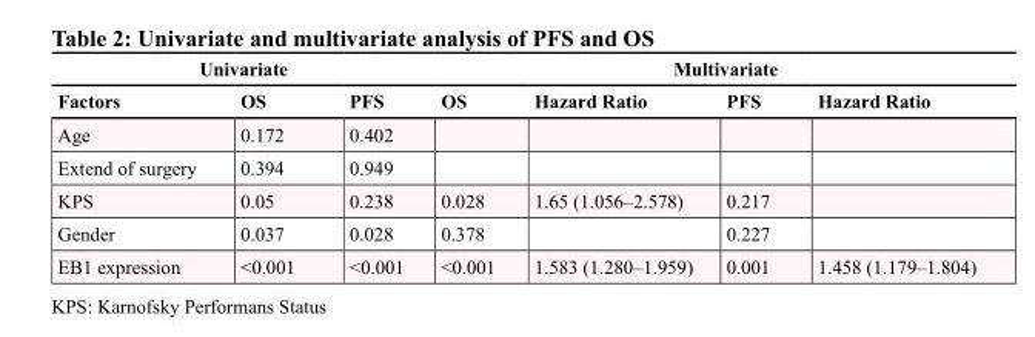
<table><thead><tr><td colspan="4">Univariate</td><td colspan="3">Multivariate</td></tr><tr><td>Factors</td><td>OS</td><td>PFS</td><td>OS</td><td>Hazard Ratio</td><td>PFS</td><td>Hazard Ratio</td></tr></thead><tbody><tr><td>Age</td><td>0.172</td><td>0.402</td><td></td><td></td><td></td><td></td></tr><tr><td>Extend of surgery</td><td>0.394</td><td>0.949</td><td></td><td></td><td></td><td></td></tr><tr><td>KPS</td><td>0.05</td><td>0.238</td><td>0.028</td><td>1.65 (1.056–2.578)</td><td>0.217</td><td></td></tr><tr><td>Gender</td><td>0.037</td><td>0.028</td><td>0.378</td><td></td><td>0.227</td><td></td></tr><tr><td>EB1 expression</td><td>&lt;0.001</td><td>&lt;0.001</td><td>&lt;0.001</td><td>1.583 (1.280–1.959)</td><td>0.001</td><td>1.458 (1.179–1.804)</td></tr></tbody></table>